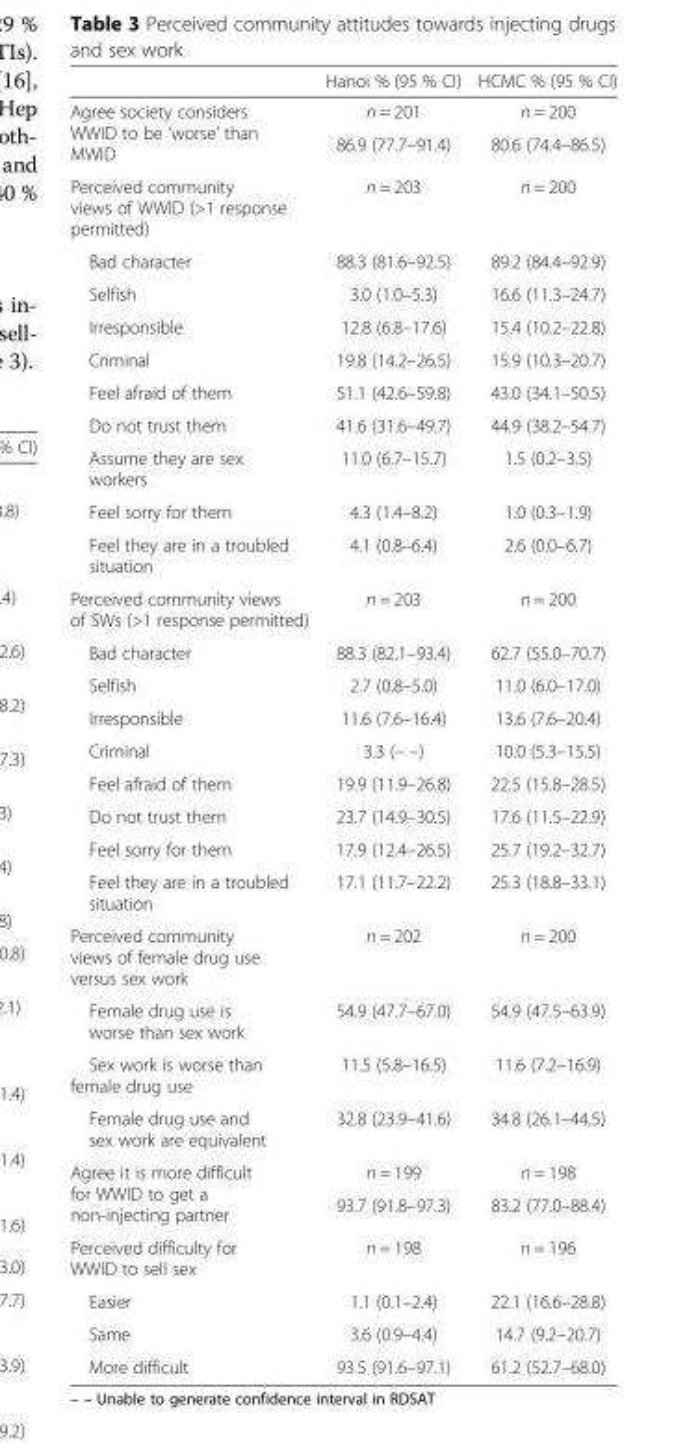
<table><thead><tr><td></td><td>Hanoi % (95 % CI)</td><td>HCMC % (95 % CI)</td></tr></thead><tbody><tr><td rowspan="2">Agree society considers WWID to be ‘worse’ than MWID</td><td>n = 201</td><td>n = 200</td></tr><tr><td>86.9 (77.7–91.4)</td><td>80.6 (74.4–86.5)</td></tr><tr><td>Perceived community views of WWID (&gt;1 response permitted)</td><td>n = 203</td><td>n = 200</td></tr><tr><td>Bad character</td><td>88.3 (81.6–92.5)</td><td>89.2 (84.4–92.9)</td></tr><tr><td>Selfish</td><td>3.0 (1.0–5.3)</td><td>16.6 (11.3–24.7)</td></tr><tr><td>Irresponsible</td><td>12.8 (6.8–17.6)</td><td>15.4 (10.2–22.8)</td></tr><tr><td>Criminal</td><td>19.8 (14.2–26.5)</td><td>15.9 (10.3–20.7)</td></tr><tr><td>Feel afraid of them</td><td>51.1 (42.6–59.8)</td><td>43.0 (34.1–50.5)</td></tr><tr><td>Do not trust them</td><td>41.6 (31.6–49.7)</td><td>44.9 (38.2–54.7)</td></tr><tr><td>Assume they are sex workers</td><td>11.0 (6.7–15.7)</td><td>1.5 (0.2–3.5)</td></tr><tr><td>Feel sorry for them</td><td>4.3 (1.4–8.2)</td><td>1.0 (0.3–1.9)</td></tr><tr><td>Feel they are in a troubled situation</td><td>4.1 (0.8–6.4)</td><td>2.6 (0.0–6.7)</td></tr><tr><td>Perceived community views of SWs (&gt;1 response permitted)</td><td>n = 203</td><td>n = 200</td></tr><tr><td>Bad character</td><td>88.3 (82.1–93.4)</td><td>62.7 (55.0–70.7)</td></tr><tr><td>Selfish</td><td>2.7 (0.8–5.0)</td><td>11.0 (6.0–17.0)</td></tr><tr><td>Irresponsible</td><td>11.6 (7.6–16.4)</td><td>13.6 (7.6–20.4)</td></tr><tr><td>Criminal</td><td>3.3 (– –)</td><td>10.0 (5.3–15.5)</td></tr><tr><td>Feel afraid of them</td><td>19.9 (11.9–26.8)</td><td>22.5 (15.8–28.5)</td></tr><tr><td>Do not trust them</td><td>23.7 (14.9–30.5)</td><td>17.6 (11.5–22.9)</td></tr><tr><td>Feel sorry for them</td><td>17.9 (12.4–26.5)</td><td>25.7 (19.2–32.7)</td></tr><tr><td>Feel they are in a troubled situation</td><td>17.1 (11.7–22.2)</td><td>25.3 (18.8–33.1)</td></tr><tr><td>Perceived community views of female drug use versus sex work</td><td>n = 202</td><td>n = 200</td></tr><tr><td>Female drug use is worse than sex work</td><td>54.9 (47.7–67.0)</td><td>54.9 (47.5–63.9)</td></tr><tr><td>Sex work is worse than female drug use</td><td>11.5 (5.8–16.5)</td><td>11.6 (7.2–16.9)</td></tr><tr><td>Female drug use and sex work are equivalent</td><td>32.8 (23.9–41.6)</td><td>34.8 (26.1–44.5)</td></tr><tr><td rowspan="2">Agree it is more difficult for WWID to get a non-injecting partner</td><td>n = 199</td><td>n = 198</td></tr><tr><td>93.7 (91.8–97.3)</td><td>83.2 (77.0–88.4)</td></tr><tr><td>Perceived difficulty for WWID to sell sex</td><td>n = 198</td><td>n = 196</td></tr><tr><td>Easier</td><td>1.1 (0.1–2.4)</td><td>22.1 (16.6–28.8)</td></tr><tr><td>Same</td><td>3.6 (0.9–4.4)</td><td>14.7 (9.2–20.7)</td></tr><tr><td>More difficult</td><td>93.5 (91.6–97.1)</td><td>61.2 (52.7–68.0)</td></tr></tbody></table>